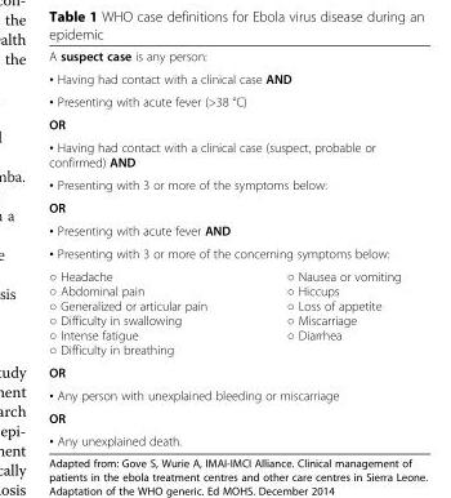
<table><tbody><tr><td colspan="2">A suspect case is any person:</td></tr><tr><td colspan="2">• Having had contact with a clinical case AND</td></tr><tr><td colspan="2">• Presenting with acute fever (&gt;38 °C)</td></tr><tr><td colspan="2">OR</td></tr><tr><td colspan="2">• Having had contact with a clinical case (suspect, probable or confirmed) AND</td></tr><tr><td colspan="2">• Presenting with 3 or more of the symptoms below:</td></tr><tr><td colspan="2">OR</td></tr><tr><td colspan="2">• Presenting with acute fever AND</td></tr><tr><td colspan="2">• Presenting with 3 or more of the concerning symptoms below:</td></tr><tr><td>○ Headache ○ Abdominal pain ○ Generalized or articular pain ○ Difficulty in swallowing ○ Intense fatigue ○ Difficulty in breathing</td><td>○ Nausea or vomiting ○ Hiccups ○ Loss of appetite ○ Miscarriage ○ Diarrhea</td></tr><tr><td colspan="2">OR</td></tr><tr><td colspan="2">• Any person with unexplained bleeding or miscarriage</td></tr><tr><td colspan="2">OR</td></tr><tr><td colspan="2">• Any unexplained death.</td></tr></tbody></table>